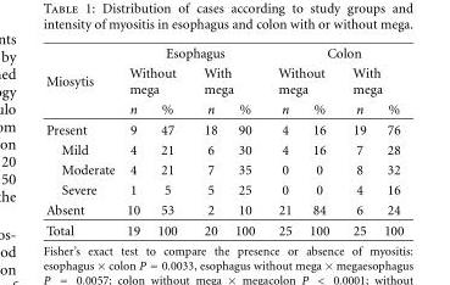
<table><thead><tr><td rowspan="3">Miosytis</td><td colspan="4">Esophagus</td><td colspan="4">Colon</td></tr><tr><td colspan="2">Without mega</td><td colspan="2">With mega</td><td colspan="2">Without mega</td><td colspan="2">With mega</td></tr><tr><td>n</td><td>%</td><td>n</td><td>%</td><td>n</td><td>%</td><td>n</td><td>%</td></tr></thead><tbody><tr><td>Present</td><td>9</td><td>47</td><td>18</td><td>90</td><td>4</td><td>16</td><td>19</td><td>76</td></tr><tr><td>Mild</td><td>4</td><td>21</td><td>6</td><td>30</td><td>4</td><td>16</td><td>7</td><td>28</td></tr><tr><td>Moderate</td><td>4</td><td>21</td><td>7</td><td>35</td><td>0</td><td>0</td><td>8</td><td>32</td></tr><tr><td>Severe</td><td>1</td><td>5</td><td>5</td><td>25</td><td>0</td><td>0</td><td>4</td><td>16</td></tr><tr><td>Absent</td><td>10</td><td>53</td><td>2</td><td>10</td><td>21</td><td>84</td><td>6</td><td>24</td></tr><tr><td>Total</td><td>19</td><td>100</td><td>20</td><td>100</td><td>25</td><td>100</td><td>25</td><td>100</td></tr></tbody></table>